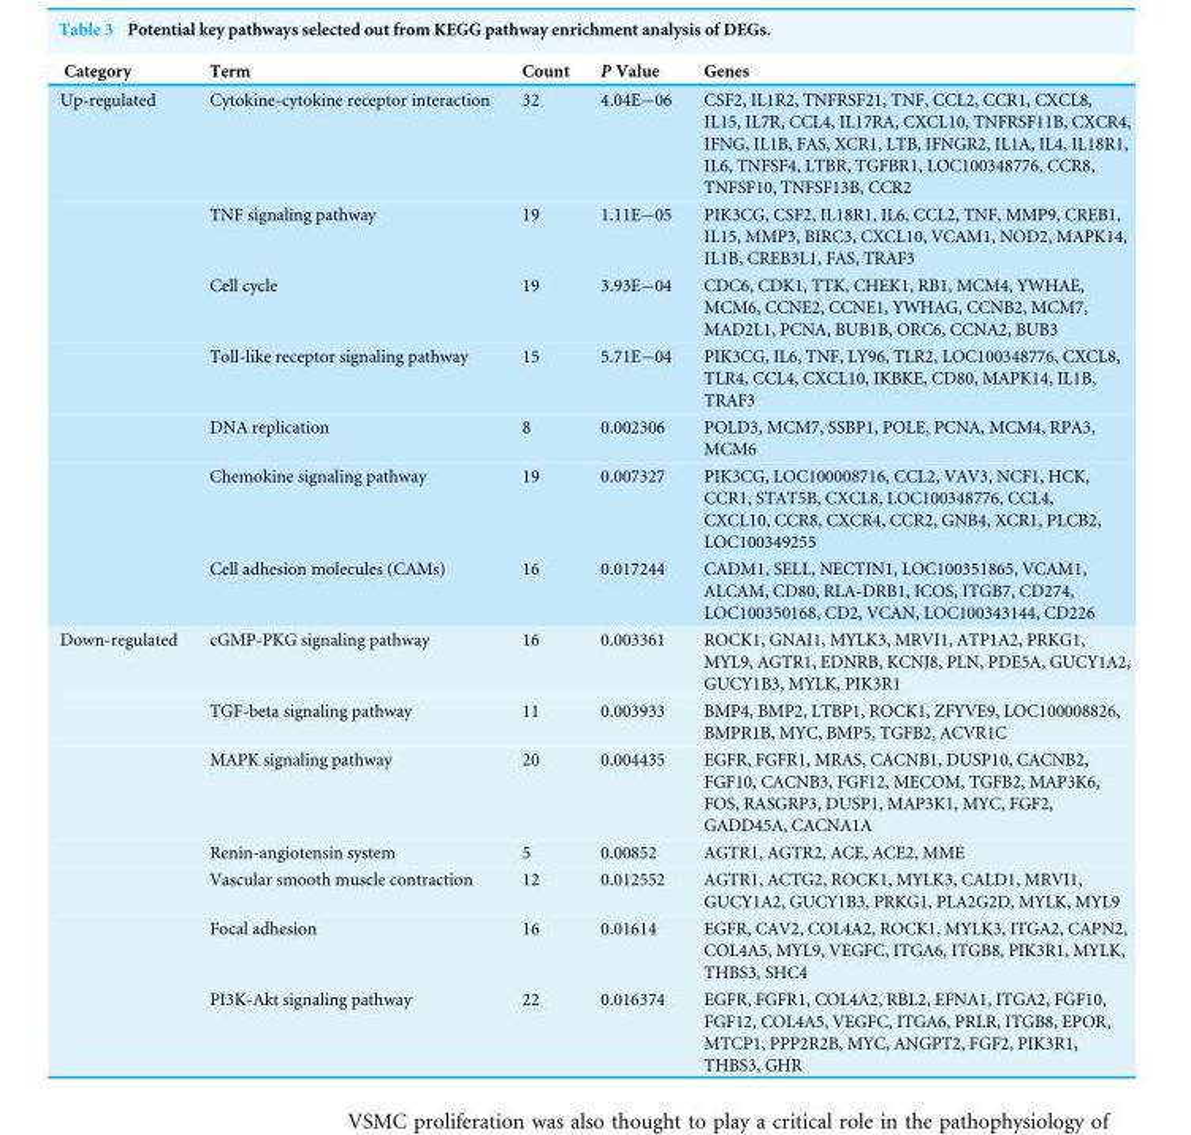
<table><thead><tr><td>Category</td><td>Term</td><td>Count</td><td>P Value</td><td>Genes</td></tr></thead><tbody><tr><td rowspan="7">Up-regulated</td><td>Cytokine-cytokine receptor interaction</td><td>32</td><td>4.04E−06</td><td>CSF2, IL1R2, TNFRSF21, TNF, CCL2, CCR1, CXCL8, IL15, IL7R, CCL4, IL17RA, CXCL10, TNFRSF11B, CXCR4, IFNG, IL1B, FAS, XCR1, LTB, IFNGR2, IL1A, IL4, IL18R1, IL6, TNFSF4, LTBR, TGFBR1, LOC100348776, CCR8, TNFSF10, TNFSF13B, CCR2</td></tr><tr><td>TNF signaling pathway</td><td>19</td><td>1.11E−05</td><td>PIK3CG, CSF2, IL18R1, IL6, CCL2, TNF, MMP9, CREB1, IL15, MMP3, BIRC3, CXCL10, VCAM1, NOD2, MAPK14, IL1B, CREB3L1, FAS, TRAF3</td></tr><tr><td>Cell cycle</td><td>19</td><td>3.93E−04</td><td>CDC6, CDK1, TTK, CHEK1, RB1, MCM4, YWHAE, MCM6, CCNE2, CCNE1, YWHAG, CCNB2, MCM7, MAD2L1, PCNA, BUB1B, ORC6, CCNA2, BUB3</td></tr><tr><td>Toll-like receptor signaling pathway</td><td>15</td><td>5.71E−04</td><td>PIK3CG, IL6, TNF, LY96, TLR2, LOC100348776, CXCL8, TLR4, CCL4, CXCL10, IKBKE, CD80, MAPK14, IL1B, TRAF3</td></tr><tr><td>DNA replication</td><td>8</td><td>0.002306</td><td>POLD3, MCM7, SSBP1, POLE, PCNA, MCM4, RPA3, MCM6</td></tr><tr><td>Chemokine signaling pathway</td><td>19</td><td>0.007327</td><td>PIK3CG, LOC100008716, CCL2, VAV3, NCF1, HCK, CCR1, STAT5B, CXCL8, LOC100348776, CCL4, CXCL10, CCR8, CXCR4, CCR2, GNB4, XCR1, PLCB2, LOC100349255</td></tr><tr><td>Cell adhesion molecules (CAMs)</td><td>16</td><td>0.017244</td><td>CADM1, SELL, NECTIN1, LOC100351865, VCAM1, ALCAM, CD80, RLA-DRB1, ICOS, ITGB7, CD274, LOC100350168, CD2, VCAN, LOC100343144, CD226</td></tr><tr><td rowspan="7">Down-regulated</td><td>cGMP-PKG signaling pathway</td><td>16</td><td>0.003361</td><td>ROCK1, GNAI1, MYLK3, MRVI1, ATP1A2, PRKG1, MYL9, AGTR1, EDNRB, KCNJ8, PLN, PDE5A, GUCY1A2, GUCY1B3, MYLK, PIK3R1</td></tr><tr><td>TGF-beta signaling pathway</td><td>11</td><td>0.003933</td><td>BMP4, BMP2, LTBP1, ROCK1, ZFYVE9, LOC100008826, BMPR1B, MYC, BMP5, TGFB2, ACVR1C</td></tr><tr><td>MAPK signaling pathway</td><td>20</td><td>0.004435</td><td>EGFR, FGFR1, MRAS, CACNB1, DUSP10, CACNB2, FGF10, CACNB3, FGF12, MECOM, TGFB2, MAP3K6, FOS, RASGRP3, DUSP1, MAP3K1, MYC, FGF2, GADD45A, CACNA1A</td></tr><tr><td>Renin-angiotensin system</td><td>5</td><td>0.00852</td><td>AGTR1, AGTR2, ACE, ACE2, MME</td></tr><tr><td>Vascular smooth muscle contraction</td><td>12</td><td>0.012552</td><td>AGTR1, ACTG2, ROCK1, MYLK3, CALD1, MRVI1, GUCY1A2, GUCY1B3, PRKG1, PLA2G2D, MYLK, MYL9</td></tr><tr><td>Focal adhesion</td><td>16</td><td>0.01614</td><td>EGFR, CAV2, COL4A2, ROCK1, MYLK3, ITGA2, CAPN2, COL4A5, MYL9, VEGFC, ITGA6, ITGB8, PIK3R1, MYLK, THBS3, SHC4</td></tr><tr><td>PI3K-Akt signaling pathway</td><td>22</td><td>0.016374</td><td>EGFR, FGFR1, COL4A2, RBL2, EFNA1, ITGA2, FGF10, FGF12, COL4A5, VEGFC, ITGA6, PRLR, ITGB8, EPOR, MTCP1, PPP2R2B, MYC, ANGPT2, FGF2, PIK3R1, THBS3, GHR</td></tr></tbody></table>